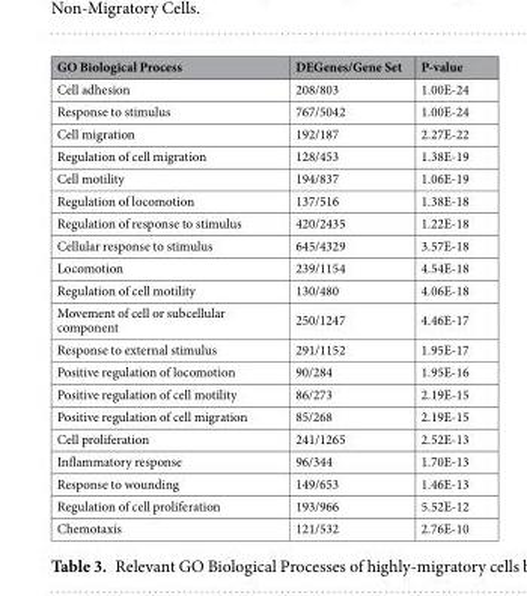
<table><thead><tr><td>GO Biological Process</td><td>DEGenes/Gene Set</td><td>P-value</td></tr></thead><tbody><tr><td>Cell adhesion</td><td>208/803</td><td>1.00E-24</td></tr><tr><td>Response to stimulus</td><td>767/5042</td><td>1.00E-24</td></tr><tr><td>Cell migration</td><td>192/187</td><td>2.27E-22</td></tr><tr><td>Regulation of cell migration</td><td>128/453</td><td>1.38E-19</td></tr><tr><td>Cell motility</td><td>194/837</td><td>1.06E-19</td></tr><tr><td>Regulation of locomotion</td><td>137/516</td><td>1.38E-18</td></tr><tr><td>Regulation of response to stimulus</td><td>420/2435</td><td>1.22E-18</td></tr><tr><td>Cellular response to stimulus</td><td>645/4329</td><td>3.57E-18</td></tr><tr><td>Locomotion</td><td>239/1154</td><td>4.54E-18</td></tr><tr><td>Regulation of cell motility</td><td>130/480</td><td>4.06E-18</td></tr><tr><td>Movement of cell or subcellular component</td><td>250/1247</td><td>4.46E-17</td></tr><tr><td>Response to external stimulus</td><td>291/1152</td><td>1.95E-17</td></tr><tr><td>Positive regulation of locomotion</td><td>90/284</td><td>1.95E-16</td></tr><tr><td>Positive regulation of cell motility</td><td>86/273</td><td>2.19E-15</td></tr><tr><td>Positive regulation of cell migration</td><td>85/268</td><td>2.19E-15</td></tr><tr><td>Cell proliferation</td><td>241/1265</td><td>2.52E-13</td></tr><tr><td>Inflammatory response</td><td>96/344</td><td>1.70E-13</td></tr><tr><td>Response to wounding</td><td>149/653</td><td>1.46E-13</td></tr><tr><td>Regulation of cell proliferation</td><td>193/966</td><td>5.52E-12</td></tr><tr><td>Chemotaxis</td><td>121/532</td><td>2.76E-10</td></tr></tbody></table>